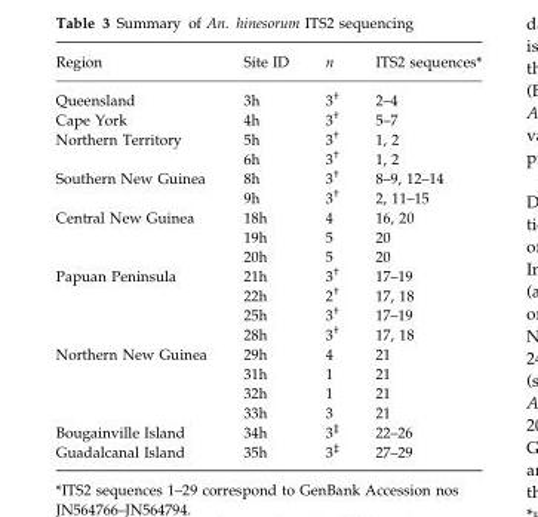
<table><thead><tr><td>Region</td><td>Site ID</td><td>n</td><td>ITS2 sequences*</td></tr></thead><tbody><tr><td>Queensland</td><td>3h</td><td>3†</td><td>2–4</td></tr><tr><td>Cape York</td><td>4h</td><td>3†</td><td>5–7</td></tr><tr><td rowspan="2">Northern Territory</td><td>5h</td><td>3†</td><td>1, 2</td></tr><tr><td>6h</td><td>3†</td><td>1, 2</td></tr><tr><td rowspan="2">Southern New Guinea</td><td>8h</td><td>3†</td><td>8–9, 12–14</td></tr><tr><td>9h</td><td>3†</td><td>2, 11–15</td></tr><tr><td rowspan="3">Central New Guinea</td><td>18h</td><td>4</td><td>16, 20</td></tr><tr><td>19h</td><td>5</td><td>20</td></tr><tr><td>20h</td><td>5</td><td>20</td></tr><tr><td rowspan="4">Papuan Peninsula</td><td>21h</td><td>3†</td><td>17–19</td></tr><tr><td>22h</td><td>2†</td><td>17, 18</td></tr><tr><td>25h</td><td>3†</td><td>17–19</td></tr><tr><td>28h</td><td>3†</td><td>17, 18</td></tr><tr><td rowspan="4">Northern New Guinea</td><td>29h</td><td>4</td><td>21</td></tr><tr><td>31h</td><td>1</td><td>21</td></tr><tr><td>32h</td><td>1</td><td>21</td></tr><tr><td>33h</td><td>3</td><td>21</td></tr><tr><td>Bougainville Island</td><td>34h</td><td>3‡</td><td>22–26</td></tr><tr><td>Guadalcanal Island</td><td>35h</td><td>3‡</td><td>27–29</td></tr></tbody></table>